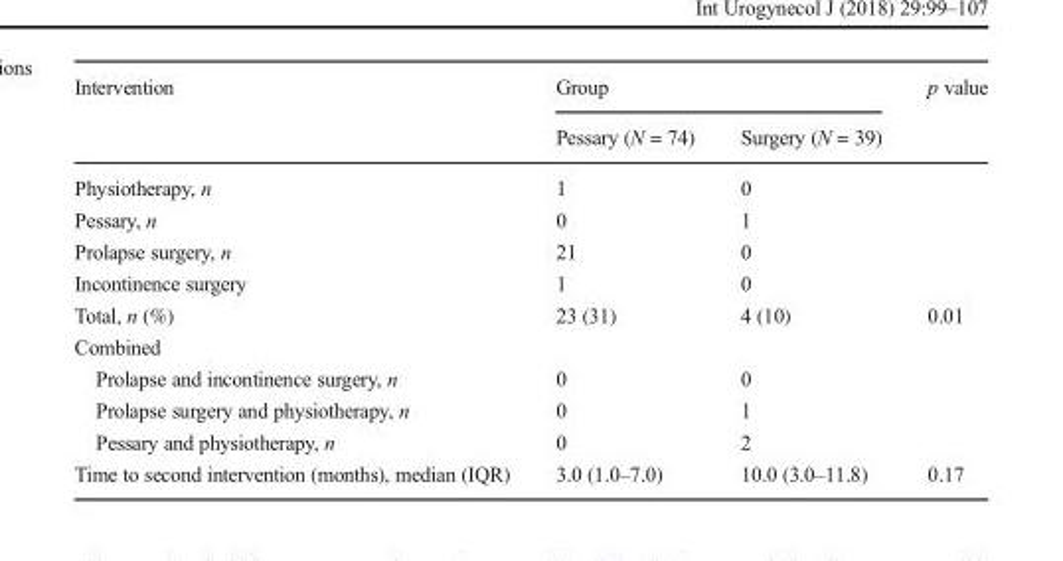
<table><thead><tr><td rowspan="2">Intervention</td><td colspan="2">Group</td><td rowspan="2">p value</td></tr><tr><td>Pessary (N = 74)</td><td>Surgery (N = 39)</td></tr></thead><tbody><tr><td>Physiotherapy, n</td><td>1</td><td>0</td><td></td></tr><tr><td>Pessary, n</td><td>0</td><td>1</td><td></td></tr><tr><td>Prolapse surgery, n</td><td>21</td><td>0</td><td></td></tr><tr><td>Incontinence surgery</td><td>1</td><td>0</td><td></td></tr><tr><td>Total, n (%)</td><td>23 (31)</td><td>4 (10)</td><td>0.01</td></tr><tr><td colspan="4">Combined</td></tr><tr><td>Prolapse and incontinence surgery, n</td><td>0</td><td>0</td><td></td></tr><tr><td>Prolapse surgery and physiotherapy, n</td><td>0</td><td>1</td><td></td></tr><tr><td>Pessary and physiotherapy, n</td><td>0</td><td>2</td><td></td></tr><tr><td>Time to second intervention (months), median (IQR)</td><td>3.0 (1.0–7.0)</td><td>10.0 (3.0–11.8)</td><td>0.17</td></tr></tbody></table>